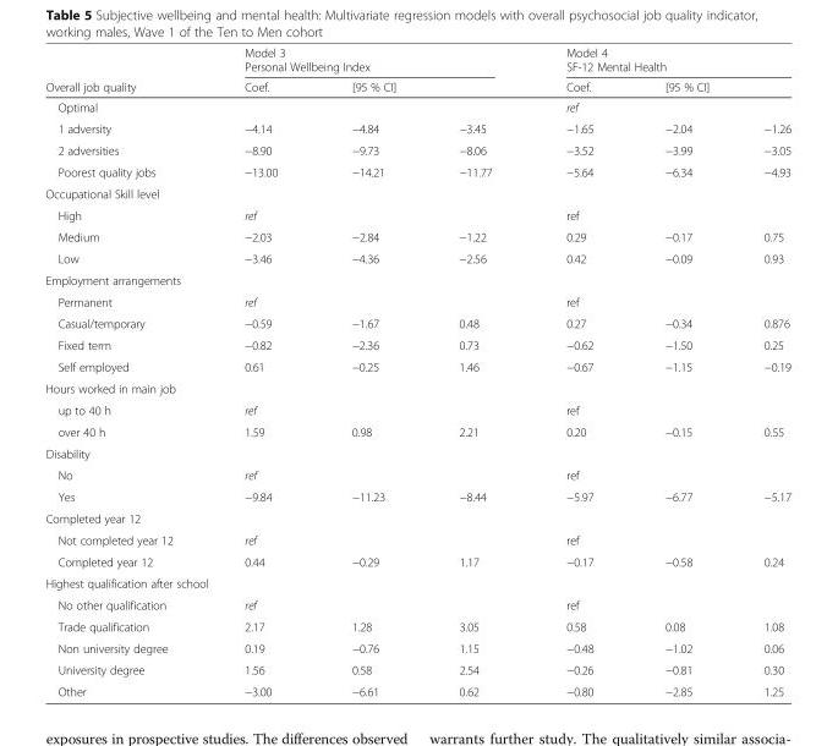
<table><thead><tr><td rowspan="3">Overall job quality Optimal</td><td colspan="3">Model 3 Personal Wellbeing Index</td><td colspan="3">Model 4 SF-12 Mental Health</td></tr><tr><td rowspan="2">Coef.</td><td colspan="2">[95 % CI]</td><td rowspan="2">Coef. ref</td><td colspan="2">[95 % CI]</td></tr><tr><td></td><td></td><td></td><td></td></tr></thead><tbody><tr><td>1 adversity</td><td>−4.14</td><td>−4.84</td><td>−3.45</td><td>−1.65</td><td>−2.04</td><td>−1.26</td></tr><tr><td>2 adversities</td><td>−8.90</td><td>−9.73</td><td>−8.06</td><td>−3.52</td><td>−3.99</td><td>−3.05</td></tr><tr><td>Poorest quality jobs</td><td>−13.00</td><td>−14.21</td><td>−11.77</td><td>−5.64</td><td>−6.34</td><td>−4.93</td></tr><tr><td colspan="7">Occupational Skill level</td></tr><tr><td>High</td><td>ref</td><td></td><td></td><td>ref</td><td></td><td></td></tr><tr><td>Medium</td><td>−2.03</td><td>−2.84</td><td>−1.22</td><td>0.29</td><td>−0.17</td><td>0.75</td></tr><tr><td>Low</td><td>−3.46</td><td>−4.36</td><td>−2.56</td><td>0.42</td><td>−0.09</td><td>0.93</td></tr><tr><td colspan="7">Employment arrangements</td></tr><tr><td>Permanent</td><td>ref</td><td></td><td></td><td>ref</td><td></td><td></td></tr><tr><td>Casual/temporary</td><td>−0.59</td><td>−1.67</td><td>0.48</td><td>0.27</td><td>−0.34</td><td>0.876</td></tr><tr><td>Fixed term</td><td>−0.82</td><td>−2.36</td><td>0.73</td><td>−0.62</td><td>−1.50</td><td>0.25</td></tr><tr><td>Self employed</td><td>0.61</td><td>−0.25</td><td>1.46</td><td>−0.67</td><td>−1.15</td><td>−0.19</td></tr><tr><td colspan="7">Hours worked in main job</td></tr><tr><td>up to 40 h</td><td>ref</td><td></td><td></td><td>ref</td><td></td><td></td></tr><tr><td>over 40 h</td><td>1.59</td><td>0.98</td><td>2.21</td><td>0.20</td><td>−0.15</td><td>0.55</td></tr><tr><td colspan="7">Disability</td></tr><tr><td>No</td><td>ref</td><td></td><td></td><td>ref</td><td></td><td></td></tr><tr><td>Yes</td><td>−9.84</td><td>−11.23</td><td>−8.44</td><td>−5.97</td><td>−6.77</td><td>−5.17</td></tr><tr><td colspan="7">Completed year 12</td></tr><tr><td>Not completed year 12</td><td>ref</td><td></td><td></td><td>ref</td><td></td><td></td></tr><tr><td>Completed year 12</td><td>0.44</td><td>−0.29</td><td>1.17</td><td>−0.17</td><td>−0.58</td><td>0.24</td></tr><tr><td colspan="7">Highest qualification after school</td></tr><tr><td>No other qualification</td><td>ref</td><td></td><td></td><td>ref</td><td></td><td></td></tr><tr><td>Trade qualification</td><td>2.17</td><td>1.28</td><td>3.05</td><td>0.58</td><td>0.08</td><td>1.08</td></tr><tr><td>Non university degree</td><td>0.19</td><td>−0.76</td><td>1.15</td><td>−0.48</td><td>−1.02</td><td>0.06</td></tr><tr><td>University degree</td><td>1.56</td><td>0.58</td><td>2.54</td><td>−0.26</td><td>−0.81</td><td>0.30</td></tr><tr><td>Other</td><td>−3.00</td><td>−6.61</td><td>0.62</td><td>−0.80</td><td>−2.85</td><td>1.25</td></tr></tbody></table>